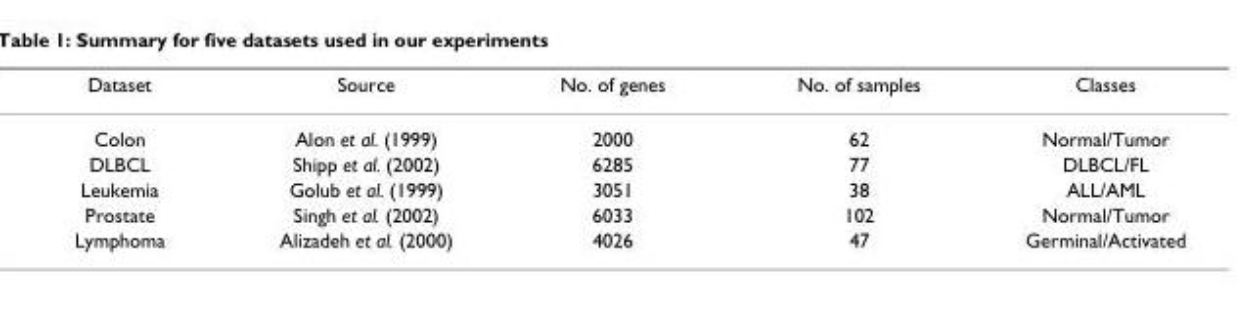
<table><thead><tr><td>Dataset</td><td>Source</td><td>No. of genes</td><td>No. of samples</td><td>Classes</td></tr></thead><tbody><tr><td>Colon</td><td>Alon et al. (1999)</td><td>2000</td><td>62</td><td>Normal/Tumor</td></tr><tr><td>DLBCL</td><td>Shipp et al. (2002)</td><td>6285</td><td>77</td><td>DLBCL/FL</td></tr><tr><td>Leukemia</td><td>Golub et al. (1999)</td><td>3051</td><td>38</td><td>ALL/AML</td></tr><tr><td>Prostate</td><td>Singh et al. (2002)</td><td>6033</td><td>102</td><td>Normal/Tumor</td></tr><tr><td>Lymphoma</td><td>Alizadeh et al. (2000)</td><td>4026</td><td>47</td><td>Germinal/Activated</td></tr></tbody></table>